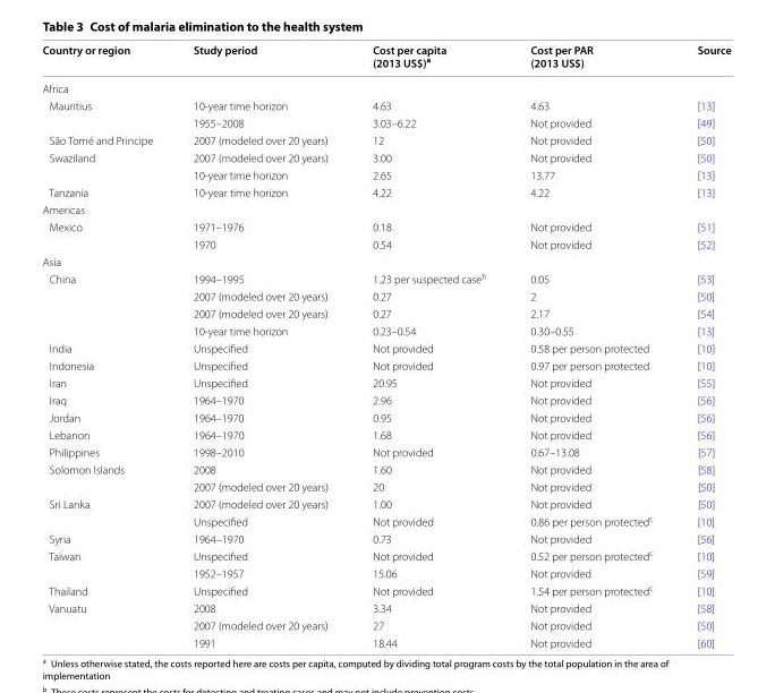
<table><thead><tr><td>Country or region</td><td>Study period</td><td>Cost per capita (2013 US$)<sup>a</sup></td><td>Cost per PAR (2013 US$)</td><td>Source</td></tr></thead><tbody><tr><td colspan="5">Africa</td></tr><tr><td rowspan="2">Mauritius</td><td>10-year time horizon</td><td>4.63</td><td>4.63</td><td>[13]</td></tr><tr><td>1955–2008</td><td>3.03–6.22</td><td>Not provided</td><td>[49]</td></tr><tr><td>São Tomé and Principe</td><td>2007 (modeled over 20 years)</td><td>12</td><td>Not provided</td><td>[50]</td></tr><tr><td rowspan="2">Swaziland</td><td>2007 (modeled over 20 years)</td><td>3.00</td><td>Not provided</td><td>[50]</td></tr><tr><td>10-year time horizon</td><td>2.65</td><td>13.77</td><td>[13]</td></tr><tr><td>Tanzania</td><td>10-year time horizon</td><td>4.22</td><td>4.22</td><td>[13]</td></tr><tr><td colspan="5">Americas</td></tr><tr><td rowspan="2">Mexico</td><td>1971–1976</td><td>0.18</td><td>Not provided</td><td>[51]</td></tr><tr><td>1970</td><td>0.54</td><td>Not provided</td><td>[52]</td></tr><tr><td colspan="5">Asia</td></tr><tr><td rowspan="4">China</td><td>1994–1995</td><td>1.23 per suspected case<sup>b</sup></td><td>0.05</td><td>[53]</td></tr><tr><td>2007 (modeled over 20 years)</td><td>0.27</td><td>2</td><td>[50]</td></tr><tr><td>2007 (modeled over 20 years)</td><td>0.27</td><td>2.17</td><td>[54]</td></tr><tr><td>10-year time horizon</td><td>0.23–0.54</td><td>0.30–0.55</td><td>[13]</td></tr><tr><td>India</td><td>Unspecified</td><td>Not provided</td><td>0.58 per person protected</td><td>[10]</td></tr><tr><td>Indonesia</td><td>Unspecified</td><td>Not provided</td><td>0.97 per person protected</td><td>[10]</td></tr><tr><td>Iran</td><td>Unspecified</td><td>20.95</td><td>Not provided</td><td>[55]</td></tr><tr><td>Iraq</td><td>1964–1970</td><td>2.96</td><td>Not provided</td><td>[56]</td></tr><tr><td>Jordan</td><td>1964–1970</td><td>0.95</td><td>Not provided</td><td>[56]</td></tr><tr><td>Lebanon</td><td>1964–1970</td><td>1.68</td><td>Not provided</td><td>[56]</td></tr><tr><td>Philippines</td><td>1998–2010</td><td>Not provided</td><td>0.67–13.08</td><td>[57]</td></tr><tr><td rowspan="2">Solomon Islands</td><td>2008</td><td>1.60</td><td>Not provided</td><td>[58]</td></tr><tr><td>2007 (modeled over 20 years)</td><td>20</td><td>Not provided</td><td>[50]</td></tr><tr><td rowspan="2">Sri Lanka</td><td>2007 (modeled over 20 years)</td><td>1.00</td><td>Not provided</td><td>[50]</td></tr><tr><td>Unspecified</td><td>Not provided</td><td>0.86 per person protected<sup>c</sup></td><td>[10]</td></tr><tr><td>Syria</td><td>1964–1970</td><td>0.73</td><td>Not provided</td><td>[56]</td></tr><tr><td rowspan="2">Taiwan</td><td>Unspecified</td><td>Not provided</td><td>0.52 per person protected<sup>c</sup></td><td>[10]</td></tr><tr><td>1952–1957</td><td>15.06</td><td>Not provided</td><td>[59]</td></tr><tr><td>Thailand</td><td>Unspecified</td><td>Not provided</td><td>1.54 per person protected<sup>c</sup></td><td>[10]</td></tr><tr><td rowspan="3">Vanuatu</td><td>2008</td><td>3.34</td><td>Not provided</td><td>[58]</td></tr><tr><td>2007 (modeled over 20 years)</td><td>27</td><td>Not provided</td><td>[50]</td></tr><tr><td>1991</td><td>18.44</td><td>Not provided</td><td>[60]</td></tr></tbody></table>